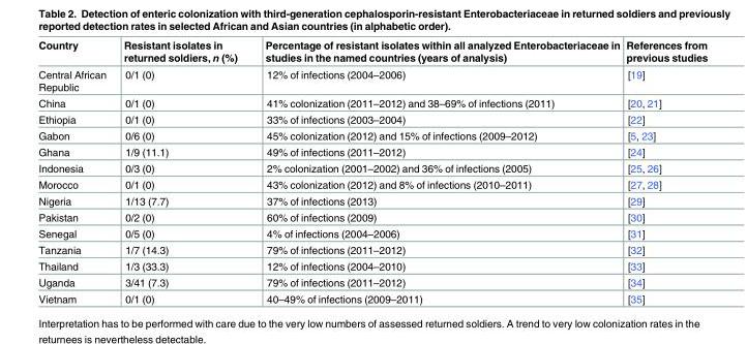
<table><thead><tr><td>Country</td><td>Resistant isolates in returned soldiers, n (%)</td><td>Percentage of resistant isolates within all analyzed Enterobacteriaceae in studies in the named countries (years of analysis)</td><td>References from previous studies</td></tr></thead><tbody><tr><td>Central African Republic</td><td>0/1 (0)</td><td>12% of infections (2004–2006)</td><td>[19]</td></tr><tr><td>China</td><td>0/1 (0)</td><td>41% colonization (2011–2012) and 38–69% of infections (2011)</td><td>[20, 21]</td></tr><tr><td>Ethiopia</td><td>0/1 (0)</td><td>33% of infections (2003–2004)</td><td>[22]</td></tr><tr><td>Gabon</td><td>0/6 (0)</td><td>45% colonization (2012) and 15% of infections (2009–2012)</td><td>[5, 23]</td></tr><tr><td>Ghana</td><td>1/9 (11.1)</td><td>49% of infections (2011–2012)</td><td>[24]</td></tr><tr><td>Indonesia</td><td>0/3 (0)</td><td>2% colonization (2001–2002) and 36% of infections (2005)</td><td>[25, 26]</td></tr><tr><td>Morocco</td><td>0/1 (0)</td><td>43% colonization (2012) and 8% of infections (2010–2011)</td><td>[27, 28]</td></tr><tr><td>Nigeria</td><td>1/13 (7.7)</td><td>37% of infections (2013)</td><td>[29]</td></tr><tr><td>Pakistan</td><td>0/2 (0)</td><td>60% of infections (2009)</td><td>[30]</td></tr><tr><td>Senegal</td><td>0/5 (0)</td><td>4% of infections (2004–2006)</td><td>[31]</td></tr><tr><td>Tanzania</td><td>1/7 (14.3)</td><td>79% of infections (2011–2012)</td><td>[32]</td></tr><tr><td>Thailand</td><td>1/3 (33.3)</td><td>12% of infections (2004–2010)</td><td>[33]</td></tr><tr><td>Uganda</td><td>3/41 (7.3)</td><td>79% of infections (2011–2012)</td><td>[34]</td></tr><tr><td>Vietnam</td><td>0/1 (0)</td><td>40–49% of infections (2009–2011)</td><td>[35]</td></tr></tbody></table>